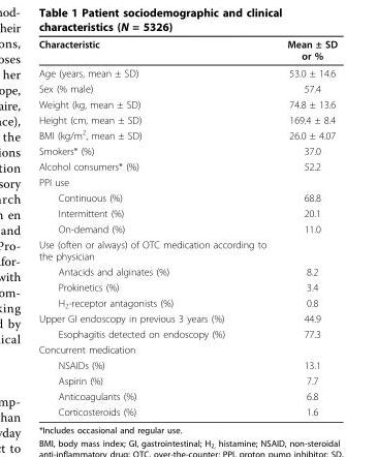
<table><thead><tr><td>Characteristic</td><td>Mean ± SD or %</td></tr></thead><tbody><tr><td>Age (years, mean ± SD)</td><td>53.0 ± 14.6</td></tr><tr><td>Sex (% male)</td><td>57.4</td></tr><tr><td>Weight (kg, mean ± SD)</td><td>74.8 ± 13.6</td></tr><tr><td>Height (cm, mean ± SD)</td><td>169.4 ± 8.4</td></tr><tr><td>BMI (kg/m<sup>2</sup>, mean ± SD)</td><td>26.0 ± 4.07</td></tr><tr><td>Smokers* (%)</td><td>37.0</td></tr><tr><td>Alcohol consumers* (%)</td><td>52.2</td></tr><tr><td colspan="2">PPI use</td></tr><tr><td>Continuous (%)</td><td>68.8</td></tr><tr><td>Intermittent (%)</td><td>20.1</td></tr><tr><td>On-demand (%)</td><td>11.0</td></tr><tr><td colspan="2">Use (often or always) of OTC medication according to the physician</td></tr><tr><td>Antacids and alginates (%)</td><td>8.2</td></tr><tr><td>Prokinetics (%)</td><td>3.4</td></tr><tr><td>H<sub>2</sub>-receptor antagonists (%)</td><td>0.8</td></tr><tr><td>Upper GI endoscopy in previous 3 years (%)</td><td>44.9</td></tr><tr><td>Esophagitis detected on endoscopy (%)</td><td>77.3</td></tr><tr><td colspan="2">Concurrent medication</td></tr><tr><td>NSAIDs (%)</td><td>13.1</td></tr><tr><td>Aspirin (%)</td><td>7.7</td></tr><tr><td>Anticoagulants (%)</td><td>6.8</td></tr><tr><td>Corticosteroids (%)</td><td>1.6</td></tr></tbody></table>